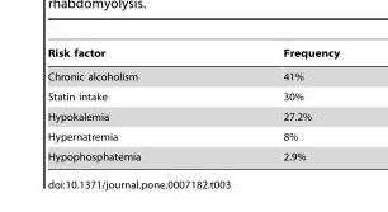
<table><thead><tr><td>Risk factor</td><td>Frequency</td></tr></thead><tbody><tr><td>Chronic alcoholism</td><td>41%</td></tr><tr><td>Statin intake</td><td>30%</td></tr><tr><td>Hypokalemia</td><td>27.2%</td></tr><tr><td>Hypernatremia</td><td>8%</td></tr><tr><td>Hypophosphatemia</td><td>2.9%</td></tr></tbody></table>